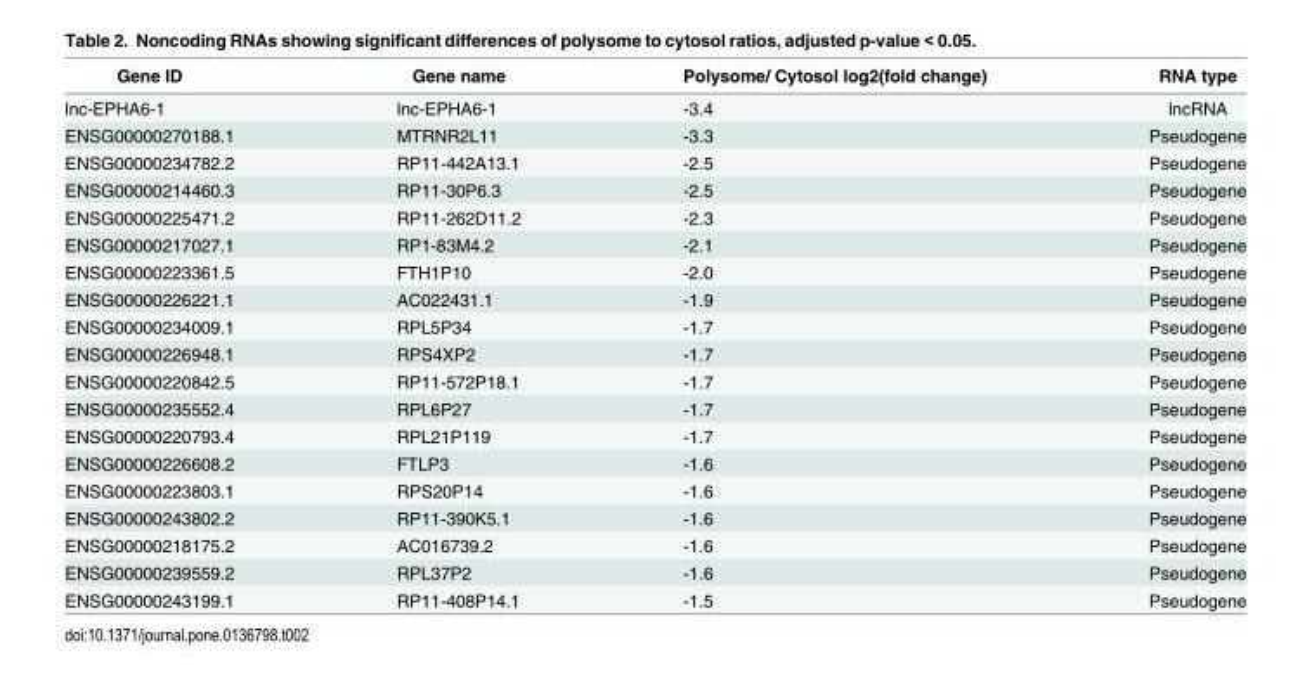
<table><thead><tr><td>Gene ID</td><td>Gene name</td><td>Polysome/ Cytosol log2(fold change)</td><td>RNA type</td></tr></thead><tbody><tr><td>lnc-EPHA6-1</td><td>lnc-EPHA6-1</td><td>-3.4</td><td>lncRNA</td></tr><tr><td>ENSG00000270188.1</td><td>MTRNR2L11</td><td>-3.3</td><td>Pseudogene</td></tr><tr><td>ENSG00000234782.2</td><td>RP11-442A13.1</td><td>-2.5</td><td>Pseudogene</td></tr><tr><td>ENSG00000214460.3</td><td>RP11-30P6.3</td><td>-2.5</td><td>Pseudogene</td></tr><tr><td>ENSG00000225471.2</td><td>RP11-262D11.2</td><td>-2.3</td><td>Pseudogene</td></tr><tr><td>ENSG00000217027.1</td><td>RP1-83M4.2</td><td>-2.1</td><td>Pseudogene</td></tr><tr><td>ENSG00000223361.5</td><td>FTH1P10</td><td>-2.0</td><td>Pseudogene</td></tr><tr><td>ENSG00000226221.1</td><td>AC022431.1</td><td>-1.9</td><td>Pseudogene</td></tr><tr><td>ENSG00000234009.1</td><td>RPL5P34</td><td>-1.7</td><td>Pseudogene</td></tr><tr><td>ENSG00000226948.1</td><td>RPS4XP2</td><td>-1.7</td><td>Pseudogene</td></tr><tr><td>ENSG00000220842.5</td><td>RP11-572P18.1</td><td>-1.7</td><td>Pseudogene</td></tr><tr><td>ENSG00000235552.4</td><td>RPL6P27</td><td>-1.7</td><td>Pseudogene</td></tr><tr><td>ENSG00000220793.4</td><td>RPL21P119</td><td>-1.7</td><td>Pseudogene</td></tr><tr><td>ENSG00000226608.2</td><td>FTLP3</td><td>-1.6</td><td>Pseudogene</td></tr><tr><td>ENSG00000223803.1</td><td>RPS20P14</td><td>-1.6</td><td>Pseudogene</td></tr><tr><td>ENSG00000243802.2</td><td>RP11-390K5.1</td><td>-1.6</td><td>Pseudogene</td></tr><tr><td>ENSG00000218175.2</td><td>AC016739.2</td><td>-1.6</td><td>Pseudogene</td></tr><tr><td>ENSG00000239559.2</td><td>RPL37P2</td><td>-1.6</td><td>Pseudogene</td></tr><tr><td>ENSG00000243199.1</td><td>RP11-408P14.1</td><td>-1.5</td><td>Pseudogene</td></tr></tbody></table>